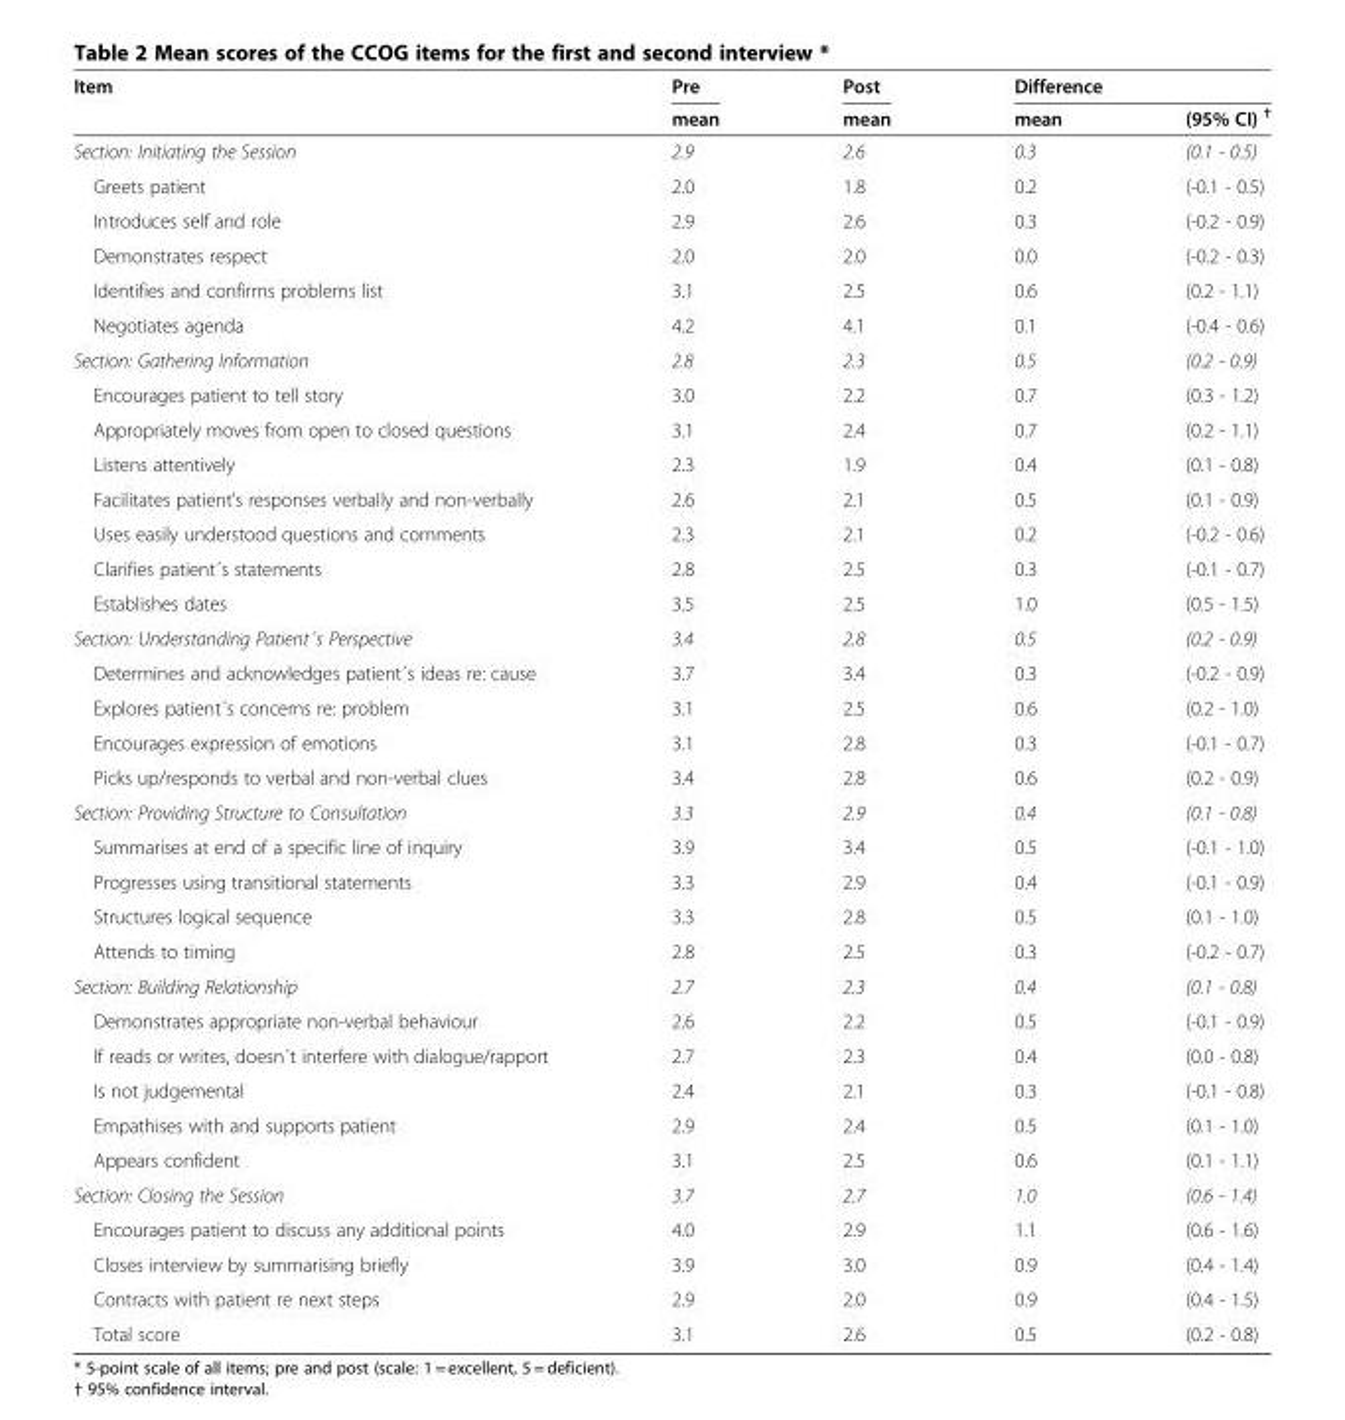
<table><thead><tr><td rowspan="2">Item</td><td rowspan="2">Pre mean</td><td rowspan="2">Post mean</td><td colspan="2">Difference</td></tr><tr><td>mean</td><td>(95% CI) <sup>†</sup></td></tr></thead><tbody><tr><td>Section: Initiating the Session</td><td>2.9</td><td>2.6</td><td>0.3</td><td>(0.1 - 0.5)</td></tr><tr><td>Greets patient</td><td>2.0</td><td>1.8</td><td>0.2</td><td>(-0.1 - 0.5)</td></tr><tr><td>Introduces self and role</td><td>2.9</td><td>2.6</td><td>0.3</td><td>(-0.2 - 0.9)</td></tr><tr><td>Demonstrates respect</td><td>2.0</td><td>2.0</td><td>0.0</td><td>(-0.2 - 0.3)</td></tr><tr><td>Identifies and confirms problems list</td><td>3.1</td><td>2.5</td><td>0.6</td><td>(0.2 - 1.1)</td></tr><tr><td>Negotiates agenda</td><td>4.2</td><td>4.1</td><td>0.1</td><td>(-0.4 - 0.6)</td></tr><tr><td>Section: Gathering Information</td><td>2.8</td><td>2.3</td><td>0.5</td><td>(0.2 - 0.9)</td></tr><tr><td>Encourages patient to tell story</td><td>3.0</td><td>2.2</td><td>0.7</td><td>(0.3 - 1.2)</td></tr><tr><td>Appropriately moves from open to closed questions</td><td>3.1</td><td>2.4</td><td>0.7</td><td>(0.2 - 1.1)</td></tr><tr><td>Listens attentively</td><td>2.3</td><td>1.9</td><td>0.4</td><td>(0.1 - 0.8)</td></tr><tr><td>Facilitates patient’s responses verbally and non-verbally</td><td>2.6</td><td>2.1</td><td>0.5</td><td>(0.1 - 0.9)</td></tr><tr><td>Uses easily understood questions and comments</td><td>2.3</td><td>2.1</td><td>0.2</td><td>(-0.2 - 0.6)</td></tr><tr><td>Clarifies patient´s statements</td><td>2.8</td><td>2.5</td><td>0.3</td><td>(-0.1 - 0.7)</td></tr><tr><td>Establishes dates</td><td>3.5</td><td>2.5</td><td>1.0</td><td>(0.5 - 1.5)</td></tr><tr><td>Section: Understanding Patient´s Perspective</td><td>3.4</td><td>2.8</td><td>0.5</td><td>(0.2 - 0.9)</td></tr><tr><td>Determines and acknowledges patient´s ideas re: cause</td><td>3.7</td><td>3.4</td><td>0.3</td><td>(-0.2 - 0.9)</td></tr><tr><td>Explores patient´s concerns re: problem</td><td>3.1</td><td>2.5</td><td>0.6</td><td>(0.2 - 1.0)</td></tr><tr><td>Encourages expression of emotions</td><td>3.1</td><td>2.8</td><td>0.3</td><td>(-0.1 - 0.7)</td></tr><tr><td>Picks up/responds to verbal and non-verbal clues</td><td>3.4</td><td>2.8</td><td>0.6</td><td>(0.2 - 0.9)</td></tr><tr><td>Section: Providing Structure to Consultation</td><td>3.3</td><td>2.9</td><td>0.4</td><td>(0.1 - 0.8)</td></tr><tr><td>Summarises at end of a specific line of inquiry</td><td>3.9</td><td>3.4</td><td>0.5</td><td>(-0.1 - 1.0)</td></tr><tr><td>Progresses using transitional statements</td><td>3.3</td><td>2.9</td><td>0.4</td><td>(-0.1 - 0.9)</td></tr><tr><td>Structures logical sequence</td><td>3.3</td><td>2.8</td><td>0.5</td><td>(0.1 - 1.0)</td></tr><tr><td>Attends to timing</td><td>2.8</td><td>2.5</td><td>0.3</td><td>(-0.2 - 0.7)</td></tr><tr><td>Section: Building Relationship</td><td>2.7</td><td>2.3</td><td>0.4</td><td>(0.1 - 0.8)</td></tr><tr><td>Demonstrates appropriate non-verbal behaviour</td><td>2.6</td><td>2.2</td><td>0.5</td><td>(-0.1 - 0.9)</td></tr><tr><td>If reads or writes, doesn´t interfere with dialogue/rapport</td><td>2.7</td><td>2.3</td><td>0.4</td><td>(0.0 - 0.8)</td></tr><tr><td>Is not judgemental</td><td>2.4</td><td>2.1</td><td>0.3</td><td>(-0.1 - 0.8)</td></tr><tr><td>Empathises with and supports patient</td><td>2.9</td><td>2.4</td><td>0.5</td><td>(0.1 - 1.0)</td></tr><tr><td>Appears confident</td><td>3.1</td><td>2.5</td><td>0.6</td><td>(0.1 - 1.1)</td></tr><tr><td>Section: Closing the Session</td><td>3.7</td><td>2.7</td><td>1.0</td><td>(0.6 - 1.4)</td></tr><tr><td>Encourages patient to discuss any additional points</td><td>4.0</td><td>2.9</td><td>1.1</td><td>(0.6 - 1.6)</td></tr><tr><td>Closes interview by summarising briefly</td><td>3.9</td><td>3.0</td><td>0.9</td><td>(0.4 - 1.4)</td></tr><tr><td>Contracts with patient re next steps</td><td>2.9</td><td>2.0</td><td>0.9</td><td>(0.4 - 1.5)</td></tr><tr><td>Total score</td><td>3.1</td><td>2.6</td><td>0.5</td><td>(0.2 - 0.8)</td></tr></tbody></table>